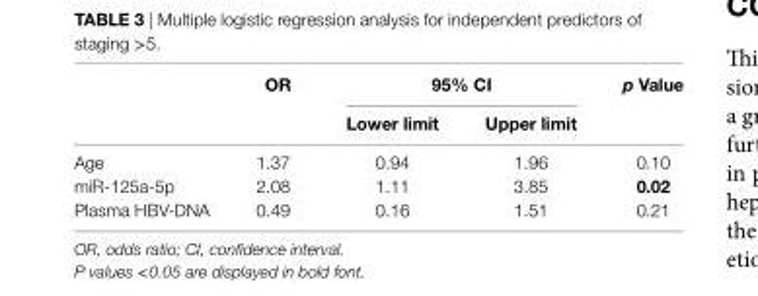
<table><thead><tr><td rowspan="2"></td><td rowspan="2">Or</td><td colspan="2">95% ci</td><td rowspan="2">p Value</td></tr><tr><td>lower limit</td><td>Upper limit</td></tr></thead><tbody><tr><td>Age</td><td>1.37</td><td>0.94</td><td>1.96</td><td>0.10</td></tr><tr><td>miR-125a-5p</td><td>2.08</td><td>1.11</td><td>3.85</td><td>0.02</td></tr><tr><td>Plasma HBV-DNA</td><td>0.49</td><td>0.16</td><td>1.51</td><td>0.21</td></tr></tbody></table>